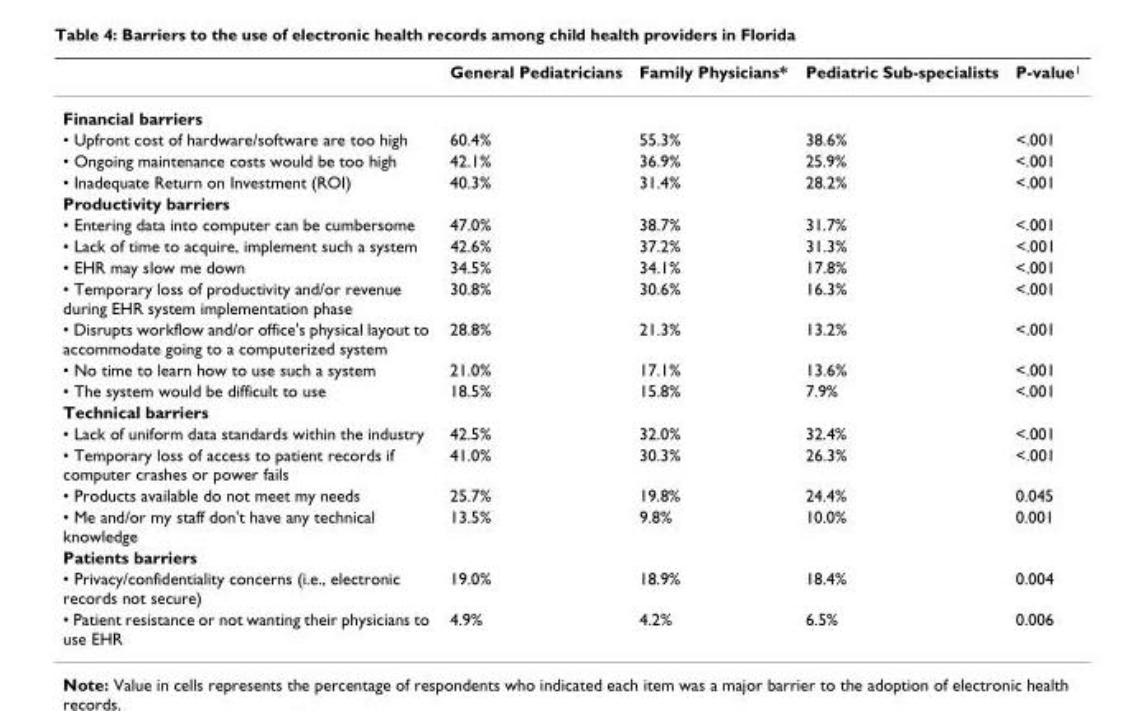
<table><thead><tr><td></td><td>General Pediatricians</td><td>Family Physicians*</td><td>Pediatric Sub-specialists</td><td>P-value<sup>1</sup></td></tr></thead><tbody><tr><td colspan="5">Financial barriers</td></tr><tr><td>• Upfront cost of hardware/software are too high</td><td>60.4%</td><td>55.3%</td><td>38.6%</td><td>&lt;.001</td></tr><tr><td>• Ongoing maintenance costs would be too high</td><td>42.1%</td><td>36.9%</td><td>25.9%</td><td>&lt;.001</td></tr><tr><td>• Inadequate Return on Investment (ROI)</td><td>40.3%</td><td>31.4%</td><td>28.2%</td><td>&lt;.001</td></tr><tr><td colspan="5">Productivity barriers</td></tr><tr><td>• Entering data into computer can be cumbersome</td><td>47.0%</td><td>38.7%</td><td>31.7%</td><td>&lt;.001</td></tr><tr><td>• Lack of time to acquire, implement such a system</td><td>42.6%</td><td>37.2%</td><td>31.3%</td><td>&lt;.001</td></tr><tr><td>• EHR may slow me down</td><td>34.5%</td><td>34.1%</td><td>17.8%</td><td>&lt;.001</td></tr><tr><td>• Temporary loss of productivity and/or revenue during EHR system implementation phase</td><td>30.8%</td><td>30.6%</td><td>16.3%</td><td>&lt;.001</td></tr><tr><td>• Disrupts workflow and/or office&#x27;s physical layout to accommodate going to a computerized system</td><td>28.8%</td><td>21.3%</td><td>13.2%</td><td>&lt;.001</td></tr><tr><td>• No time to learn how to use such a system</td><td>21.0%</td><td>17.1%</td><td>13.6%</td><td>&lt;.001</td></tr><tr><td>• The system would be difficult to use</td><td>18.5%</td><td>15.8%</td><td>7.9%</td><td>&lt;.001</td></tr><tr><td colspan="5">Technical barriers</td></tr><tr><td>• Lack of uniform data standards within the industry</td><td>42.5%</td><td>32.0%</td><td>32.4%</td><td>&lt;.001</td></tr><tr><td>• Temporary loss of access to patient records if computer crashes or power fails</td><td>41.0%</td><td>30.3%</td><td>26.3%</td><td>&lt;.001</td></tr><tr><td>• Products available do not meet my needs</td><td>25.7%</td><td>19.8%</td><td>24.4%</td><td>0.045</td></tr><tr><td>• Me and/or my staff don&#x27;t have any technical knowledge</td><td>13.5%</td><td>9.8%</td><td>10.0%</td><td>0.001</td></tr><tr><td colspan="5">Patients barriers</td></tr><tr><td>• Privacy/confidentiality concerns (i.e., electronic records not secure)</td><td>19.0%</td><td>18.9%</td><td>18.4%</td><td>0.004</td></tr><tr><td>• Patient resistance or not wanting their physicians to use EHR</td><td>4.9%</td><td>4.2%</td><td>6.5%</td><td>0.006</td></tr></tbody></table>